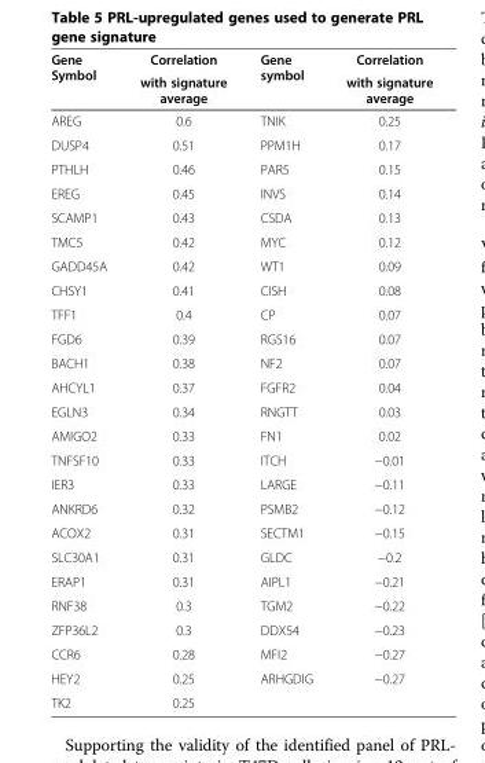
<table><thead><tr><td rowspan="2">Gene Symbol</td><td rowspan="2">Correlation with signature average</td><td rowspan="2">Gene symbol</td><td rowspan="2">Correlation with signature average</td></tr><tr></tr></thead><tbody><tr><td>AREG</td><td>0.6</td><td>TNIK</td><td>0.25</td></tr><tr><td>DUSP4</td><td>0.51</td><td>PPM1H</td><td>0.17</td></tr><tr><td>PTHLH</td><td>0.46</td><td>PAR5</td><td>0.15</td></tr><tr><td>EREG</td><td>0.45</td><td>INVS</td><td>0.14</td></tr><tr><td>SCAMP1</td><td>0.43</td><td>CSDA</td><td>0.13</td></tr><tr><td>TMC5</td><td>0.42</td><td>MYC</td><td>0.12</td></tr><tr><td>GADD45A</td><td>0.42</td><td>WT1</td><td>0.09</td></tr><tr><td>CHSY1</td><td>0.41</td><td>CISH</td><td>0.08</td></tr><tr><td>TFF1</td><td>0.4</td><td>CP</td><td>0.07</td></tr><tr><td>FGD6</td><td>0.39</td><td>RGS16</td><td>0.07</td></tr><tr><td>BACH1</td><td>0.38</td><td>NF2</td><td>0.07</td></tr><tr><td>AHCYL1</td><td>0.37</td><td>FGFR2</td><td>0.04</td></tr><tr><td>EGLN3</td><td>0.34</td><td>RNGTT</td><td>0.03</td></tr><tr><td>AMIGO2</td><td>0.33</td><td>FN1</td><td>0.02</td></tr><tr><td>TNFSF10</td><td>0.33</td><td>ITCH</td><td>−0.01</td></tr><tr><td>IER3</td><td>0.33</td><td>LARGE</td><td>−0.11</td></tr><tr><td>ANKRD6</td><td>0.32</td><td>PSMB2</td><td>−0.12</td></tr><tr><td>ACOX2</td><td>0.31</td><td>SECTM1</td><td>−0.15</td></tr><tr><td>SLC30A1</td><td>0.31</td><td>GLDC</td><td>−0.2</td></tr><tr><td>ERAP1</td><td>0.31</td><td>AIPL1</td><td>−0.21</td></tr><tr><td>RNF38</td><td>0.3</td><td>TGM2</td><td>−0.22</td></tr><tr><td>ZFP36L2</td><td>0.3</td><td>DDX54</td><td>−0.23</td></tr><tr><td>CCR6</td><td>0.28</td><td>MFI2</td><td>−0.27</td></tr><tr><td>HEY2</td><td>0.25</td><td>ARHGDIG</td><td>−0.27</td></tr><tr><td>TK2</td><td>0.25</td><td></td><td></td></tr></tbody></table>